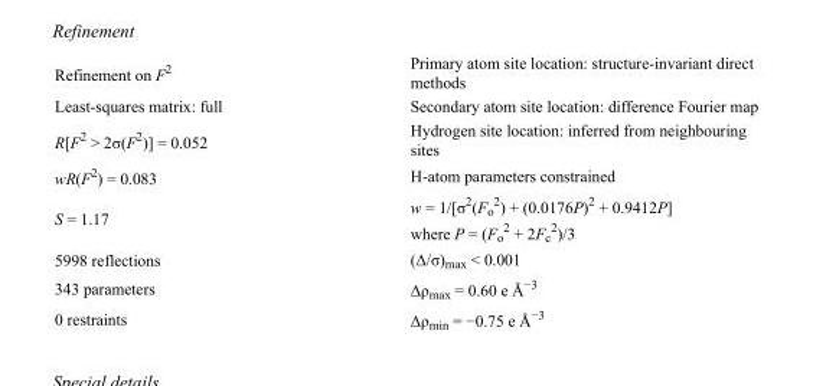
<table><tbody><tr><td>Refinement on F<sup>2</sup></td><td>Primary atom site location: structure-invariant direct methods</td></tr><tr><td>Least-squares matrix: full</td><td>Secondary atom site location: difference Fourier map</td></tr><tr><td>R[F<sup>2</sup> &gt; 2σ(F<sup>2</sup>)] = 0.052</td><td>Hydrogen site location: inferred from neighbouring sites</td></tr><tr><td>wR(F<sup>2</sup>) = 0.083</td><td>H-atom parameters constrained</td></tr><tr><td>S = 1.17</td><td>w = 1/[σ<sup>2</sup>(F<sub>o</sub> <sup>2</sup>) + (0.0176P)<sup>2</sup> + 0.9412P] where P = (F<sub>o</sub> <sup>2</sup> + 2F<sub>c</sub> <sup>2</sup>)/3</td></tr><tr><td>5998 reflections</td><td>(Δ/σ)<sub>max</sub> &lt; 0.001</td></tr><tr><td>343 parameters</td><td>Δρ<sub>max</sub> = 0.60 e Å<sup>−3</sup></td></tr><tr><td>0 restraints</td><td>Δρ<sub>min</sub> = −0.75 e Å<sup>−3</sup></td></tr></tbody></table>